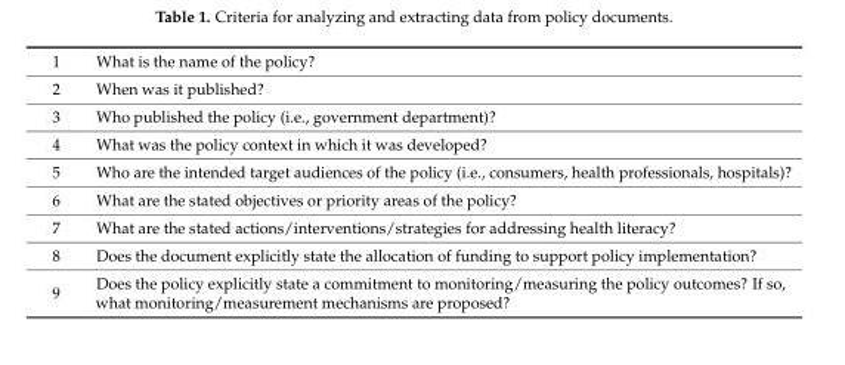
<table><tbody><tr><td>1</td><td>What is the name of the policy?</td></tr><tr><td>2</td><td>When was it published?</td></tr><tr><td>3</td><td>Who published the policy (i.e., government department)?</td></tr><tr><td>4</td><td>What was the policy context in which it was developed?</td></tr><tr><td>5</td><td>Who are the intended target audiences of the policy (i.e., consumers, health professionals, hospitals)?</td></tr><tr><td>6</td><td>What are the stated objectives or priority areas of the policy?</td></tr><tr><td>7</td><td>What are the stated actions/interventions/strategies for addressing health literacy?</td></tr><tr><td>8</td><td>Does the document explicitly state the allocation of funding to support policy implementation?</td></tr><tr><td>9</td><td>Does the policy explicitly state a commitment to monitoring/measuring the policy outcomes? If so, what monitoring/measurement mechanisms are proposed?</td></tr></tbody></table>